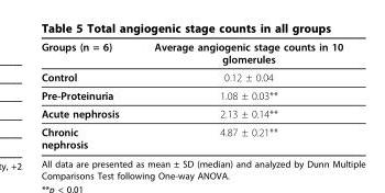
<table><thead><tr><td>Groups (n = 6)</td><td>Average angiogenic stage counts in 10 glomerules</td></tr></thead><tbody><tr><td>Control</td><td>0.12 ± 0.04</td></tr><tr><td>Pre-Proteinuria</td><td>1.08 ± 0.03**</td></tr><tr><td>Acute nephrosis</td><td>2.13 ± 0.14**</td></tr><tr><td>Chronic nephrosis</td><td>4.87 ± 0.21**</td></tr></tbody></table>